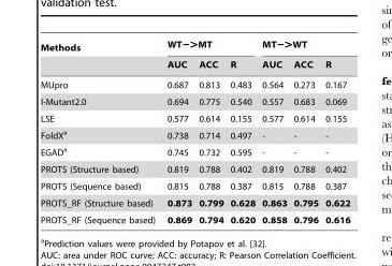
<table><thead><tr><td rowspan="2">Methods</td><td colspan="3">WT−&gt;MT</td><td colspan="3">MT−&gt;WT</td></tr><tr><td>AUC</td><td>ACC</td><td>R</td><td>AUC</td><td>ACC</td><td>R</td></tr></thead><tbody><tr><td>MUpro</td><td>0.687</td><td>0.813</td><td>0.483</td><td>0.564</td><td>0.273</td><td>0.167</td></tr><tr><td>I-Mutant2.0</td><td>0.694</td><td>0.775</td><td>0.540</td><td>0.557</td><td>0.683</td><td>0.069</td></tr><tr><td>LSE</td><td>0.577</td><td>0.614</td><td>0.155</td><td>0.577</td><td>0.614</td><td>0.155</td></tr><tr><td>FoldX<sup>a</sup></td><td>0.738</td><td>0.714</td><td>0.497</td><td>-</td><td>-</td><td>-</td></tr><tr><td>EGAD<sup>a</sup></td><td>0.745</td><td>0.732</td><td>0.595</td><td>-</td><td>-</td><td>-</td></tr><tr><td>PROTS (Structure based)</td><td>0.819</td><td>0.788</td><td>0.402</td><td>0.819</td><td>0.788</td><td>0.402</td></tr><tr><td>PROTS (Sequence based)</td><td>0.815</td><td>0.788</td><td>0.387</td><td>0.815</td><td>0.788</td><td>0.387</td></tr><tr><td>PROTS_RF (Structure based)</td><td>0.873</td><td>0.799</td><td>0.628</td><td>0.863</td><td>0.795</td><td>0.622</td></tr><tr><td>PROTS_RF (Sequence based)</td><td>0.869</td><td>0.794</td><td>0.620</td><td>0.858</td><td>0.796</td><td>0.616</td></tr></tbody></table>